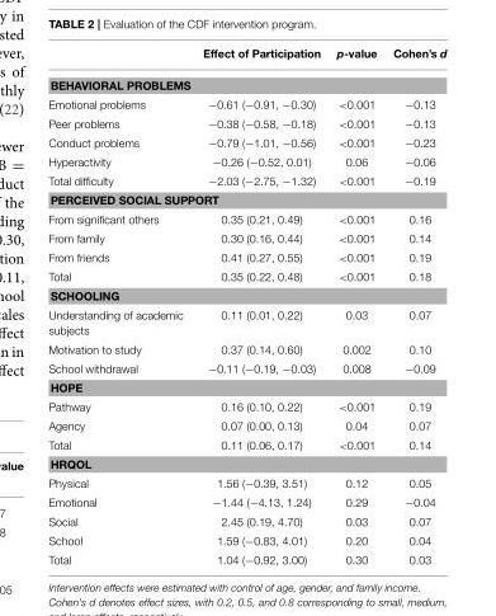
<table><thead><tr><td></td><td>Effect of Participation</td><td>p-value</td><td>Cohen’s d</td></tr></thead><tbody><tr><td colspan="4">BEHAVIORAL PROBLEMS</td></tr><tr><td>Emotional problems</td><td>−0.61 (−0.91, −0.30)</td><td>&lt;0.001</td><td>−0.13</td></tr><tr><td>Peer problems</td><td>−0.38 (−0.58, −0.18)</td><td>&lt;0.001</td><td>−0.13</td></tr><tr><td>Conduct problems</td><td>−0.79 (−1.01, −0.56)</td><td>&lt;0.001</td><td>−0.23</td></tr><tr><td>Hyperactivity</td><td>−0.26 (−0.52, 0.01)</td><td>0.06</td><td>−0.06</td></tr><tr><td>Total difficulty</td><td>−2.03 (−2.75, −1.32)</td><td>&lt;0.001</td><td>−0.19</td></tr><tr><td colspan="4">PERCEIVED SOCIAL SUPPORT</td></tr><tr><td>From significant others</td><td>0.35 (0.21, 0.49)</td><td>&lt;0.001</td><td>0.16</td></tr><tr><td>From family</td><td>0.30 (0.16, 0.44)</td><td>&lt;0.001</td><td>0.14</td></tr><tr><td>From friends</td><td>0.41 (0.27, 0.55)</td><td>&lt;0.001</td><td>0.19</td></tr><tr><td>Total</td><td>0.35 (0.22, 0.48)</td><td>&lt;0.001</td><td>0.18</td></tr><tr><td colspan="4">SCHOOLING</td></tr><tr><td>Understanding of academic subjects</td><td>0.11 (0.01, 0.22)</td><td>0.03</td><td>0.07</td></tr><tr><td>Motivation to study</td><td>0.37 (0.14, 0.60)</td><td>0.002</td><td>0.10</td></tr><tr><td>School withdrawal</td><td>−0.11 (−0.19, −0.03)</td><td>0.008</td><td>−0.09</td></tr><tr><td colspan="4">HOPE</td></tr><tr><td>Pathway</td><td>0.16 (0.10, 0.22)</td><td>&lt;0.001</td><td>0.19</td></tr><tr><td>Agency</td><td>0.07 (0.00, 0.13)</td><td>0.04</td><td>0.07</td></tr><tr><td>Total</td><td>0.11 (0.06, 0.17)</td><td>&lt;0.001</td><td>0.14</td></tr><tr><td colspan="4">HRQOL</td></tr><tr><td>Physical</td><td>1.56 (−0.39, 3.51)</td><td>0.12</td><td>0.05</td></tr><tr><td>Emotional</td><td>−1.44 (−4.13, 1.24)</td><td>0.29</td><td>−0.04</td></tr><tr><td>Social</td><td>2.45 (0.19, 4.70)</td><td>0.03</td><td>0.07</td></tr><tr><td>School</td><td>1.59 (−0.83, 4.01)</td><td>0.20</td><td>0.04</td></tr><tr><td>Total</td><td>1.04 (−0.92, 3.00)</td><td>0.30</td><td>0.03</td></tr></tbody></table>